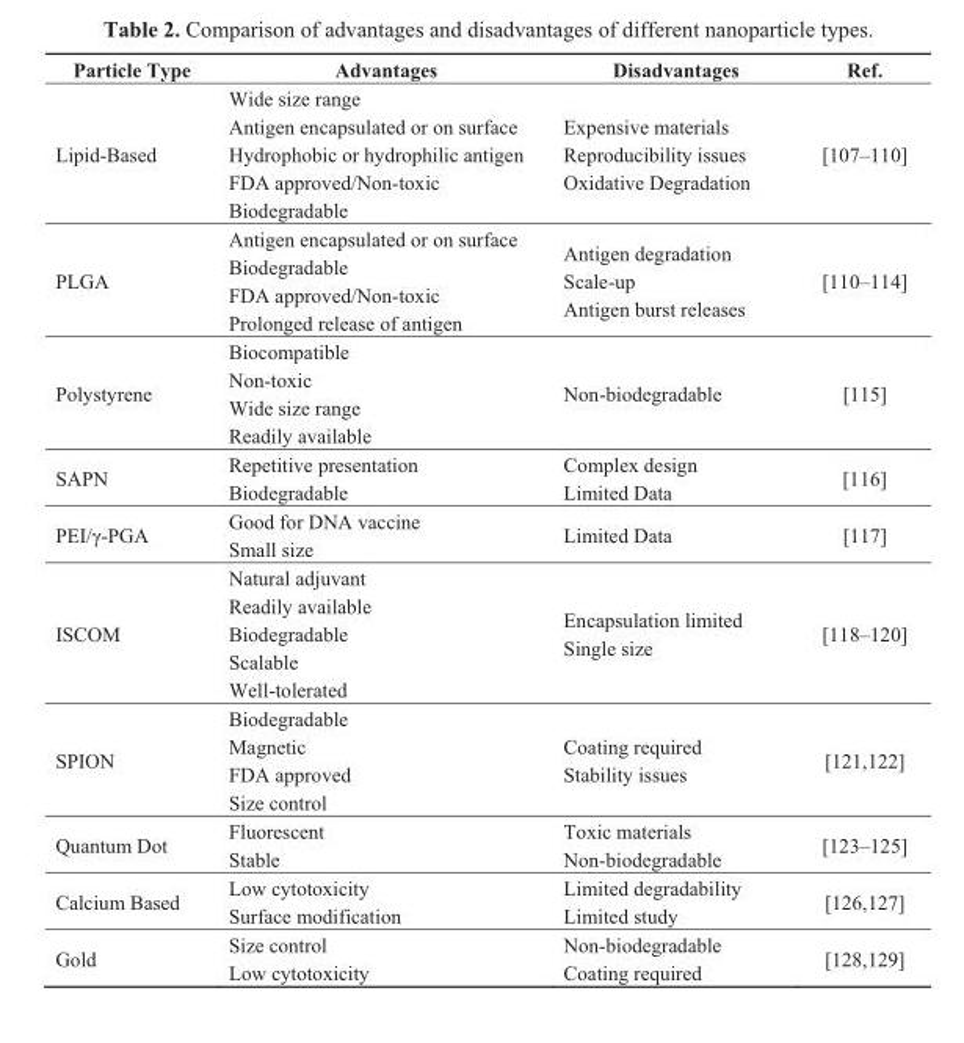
<table><thead><tr><td>Particle Type</td><td>Advantages</td><td>Disadvantages</td><td>Ref.</td></tr></thead><tbody><tr><td>Lipid-Based</td><td>Wide size range Antigen encapsulated or on surface Hydrophobic or hydrophilic antigen FDA approved/Non-toxic Biodegradable</td><td>Expensive materials Reproducibility issues Oxidative Degradation</td><td>[107–110]</td></tr><tr><td>PLGA</td><td>Antigen encapsulated or on surface Biodegradable FDA approved/Non-toxic Prolonged release of antigen</td><td>Antigen degradation Scale-up Antigen burst releases</td><td>[110–114]</td></tr><tr><td>Polystyrene</td><td>Biocompatible Non-toxic Wide size range Readily available</td><td>Non-biodegradable</td><td>[115]</td></tr><tr><td>SAPN</td><td>Repetitive presentation Biodegradable</td><td>Complex design Limited Data</td><td>[116]</td></tr><tr><td>PEI/γ-PGA</td><td>Good for DNA vaccine Small size</td><td>Limited Data</td><td>[117]</td></tr><tr><td>ISCOM</td><td>Natural adjuvant Readily available Biodegradable Scalable Well-tolerated</td><td>Encapsulation limited Single size</td><td>[118–120]</td></tr><tr><td>SPION</td><td>Biodegradable Magnetic FDA approved Size control</td><td>Coating required Stability issues</td><td>[121,122]</td></tr><tr><td>Quantum Dot</td><td>Fluorescent Stable</td><td>Toxic materials Non-biodegradable</td><td>[123–125]</td></tr><tr><td>Calcium Based</td><td>Low cytotoxicity Surface modification</td><td>Limited degradability Limited study</td><td>[126,127]</td></tr><tr><td>Gold</td><td>Size control Low cytotoxicity</td><td>Non-biodegradable Coating required</td><td>[128,129]</td></tr></tbody></table>